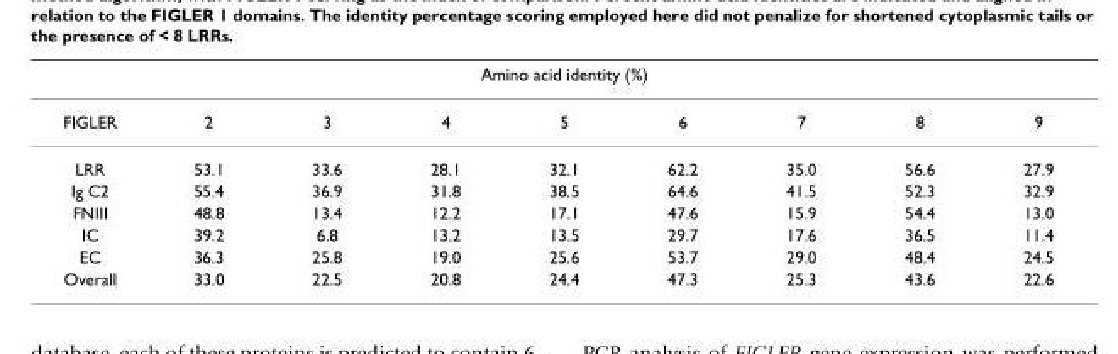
<table><thead><tr><td colspan="9">Amino acid identity (%)</td></tr><tr><td>FIGLER</td><td>2</td><td>3</td><td>4</td><td>5</td><td>6</td><td>7</td><td>8</td><td>9</td></tr></thead><tbody><tr><td>LRR</td><td>53.1</td><td>33.6</td><td>28.1</td><td>32.1</td><td>62.2</td><td>35.0</td><td>56.6</td><td>27.9</td></tr><tr><td>Ig C2</td><td>55.4</td><td>36.9</td><td>31.8</td><td>38.5</td><td>64.6</td><td>41.5</td><td>52.3</td><td>32.9</td></tr><tr><td>FNIII</td><td>48.8</td><td>13.4</td><td>12.2</td><td>17.1</td><td>47.6</td><td>15.9</td><td>54.4</td><td>13.0</td></tr><tr><td>IC</td><td>39.2</td><td>6.8</td><td>13.2</td><td>13.5</td><td>29.7</td><td>17.6</td><td>36.5</td><td>11.4</td></tr><tr><td>EC</td><td>36.3</td><td>25.8</td><td>19.0</td><td>25.6</td><td>53.7</td><td>29.0</td><td>48.4</td><td>24.5</td></tr><tr><td>Overall</td><td>33.0</td><td>22.5</td><td>20.8</td><td>24.4</td><td>47.3</td><td>25.3</td><td>43.6</td><td>22.6</td></tr></tbody></table>